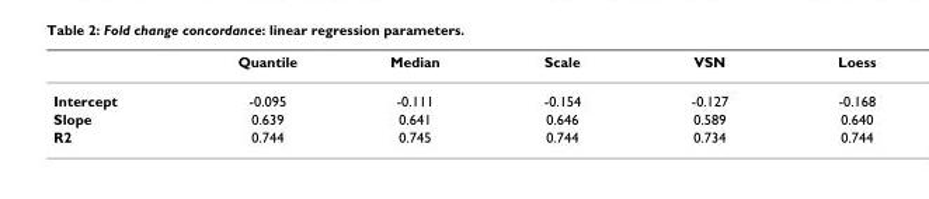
<table><thead><tr><td></td><td>Quantile</td><td>Median</td><td>Scale</td><td>VSN</td><td>Loess</td></tr></thead><tbody><tr><td>Intercept</td><td>-0.095</td><td>-0.111</td><td>-0.154</td><td>-0.127</td><td>-0.168</td></tr><tr><td>Slope</td><td>0.639</td><td>0.641</td><td>0.646</td><td>0.589</td><td>0.640</td></tr><tr><td>R2</td><td>0.744</td><td>0.745</td><td>0.744</td><td>0.734</td><td>0.744</td></tr></tbody></table>